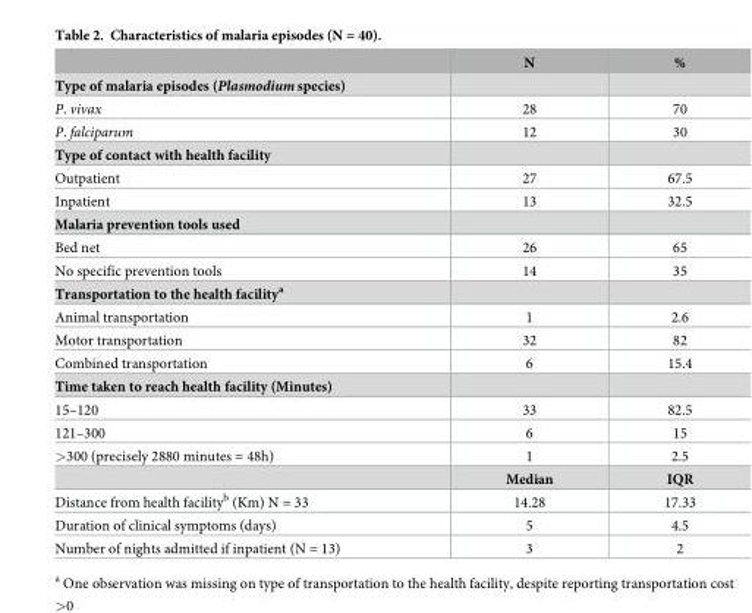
<table><thead><tr><td></td><td>N</td><td>%</td></tr></thead><tbody><tr><td colspan="3">Type of malaria episodes (Plasmodium species)</td></tr><tr><td>P. vivax</td><td>28</td><td>70</td></tr><tr><td>P. falciparum</td><td>12</td><td>30</td></tr><tr><td colspan="3">Type of contact with health facility</td></tr><tr><td>Outpatient</td><td>27</td><td>67.5</td></tr><tr><td>Inpatient</td><td>13</td><td>32.5</td></tr><tr><td colspan="3">Malaria prevention tools used</td></tr><tr><td>Bed net</td><td>26</td><td>65</td></tr><tr><td>No specific prevention tools</td><td>14</td><td>35</td></tr><tr><td colspan="3">Transportation to the health facility<sup>a</sup></td></tr><tr><td>Animal transportation</td><td>1</td><td>2.6</td></tr><tr><td>Motor transportation</td><td>32</td><td>82</td></tr><tr><td>Combined transportation</td><td>6</td><td>15.4</td></tr><tr><td colspan="3">Time taken to reach health facility (Minutes)</td></tr><tr><td>15–120</td><td>33</td><td>82.5</td></tr><tr><td>121–300</td><td>6</td><td>15</td></tr><tr><td rowspan="2">&gt;300 (precisely 2880 minutes = 48h)</td><td>1</td><td>2.5</td></tr><tr><td>Median</td><td>IQR</td></tr><tr><td>Distance from health facility<sup>b</sup> (Km) N = 33</td><td>14.28</td><td>17.33</td></tr><tr><td>Duration of clinical symptoms (days)</td><td>5</td><td>4.5</td></tr><tr><td>Number of nights admitted if inpatient (N = 13)</td><td>3</td><td>2</td></tr></tbody></table>